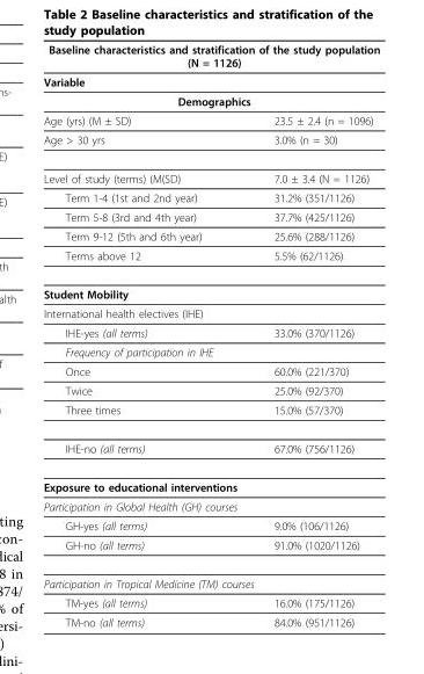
<table><thead><tr><td colspan="2">Baseline characteristics and stratification of the study population (N = 1126)</td></tr><tr><td>Variable</td><td></td></tr></thead><tbody><tr><td colspan="2">Demographics</td></tr><tr><td>Age (yrs) (M ± SD)</td><td>23.5 ± 2.4 (n = 1096)</td></tr><tr><td>Age &gt; 30 yrs</td><td>3.0% (n = 30)</td></tr><tr><td>Level of study (terms) (M(SD)</td><td>7.0 ± 3.4 (N = 1126)</td></tr><tr><td>Term 1-4 (1st and 2nd year)</td><td>31.2% (351/1126)</td></tr><tr><td>Term 5-8 (3rd and 4th year)</td><td>37.7% (425/1126)</td></tr><tr><td>Term 9-12 (5th and 6th year)</td><td>25.6% (288/1126)</td></tr><tr><td>Terms above 12</td><td>5.5% (62/1126)</td></tr><tr><td colspan="2">Student Mobility</td></tr><tr><td colspan="2">International health electives (IHE)</td></tr><tr><td>IHE-yes (all terms)</td><td>33.0% (370/1126)</td></tr><tr><td colspan="2">Frequency of participation in IHE</td></tr><tr><td>Once</td><td>60.0% (221/370)</td></tr><tr><td>Twice</td><td>25.0% (92/370)</td></tr><tr><td>Three times</td><td>15.0% (57/370)</td></tr><tr><td>IHE-no (all terms)</td><td>67.0% (756/1126)</td></tr><tr><td colspan="2">Exposure to educational interventions</td></tr><tr><td colspan="2">Participation in Global Health (GH) courses</td></tr><tr><td>GH-yes (all terms)</td><td>9.0% (106/1126)</td></tr><tr><td>GH-no (all terms)</td><td>91.0% (1020/1126)</td></tr><tr><td colspan="2">Participation in Tropical Medicine (TM) courses</td></tr><tr><td>TM-yes (all terms)</td><td>16.0% (175/1126)</td></tr><tr><td>TM-no (all terms)</td><td>84.0% (951/1126)</td></tr></tbody></table>